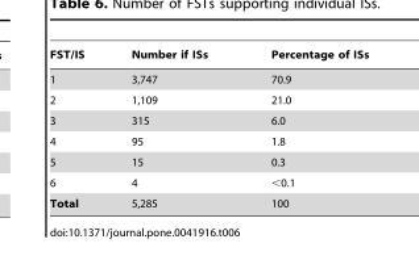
<table><thead><tr><td>FST/IS</td><td>Number if ISs</td><td>Percentage of ISs</td></tr></thead><tbody><tr><td>1</td><td>3,747</td><td>70.9</td></tr><tr><td>2</td><td>1,109</td><td>21.0</td></tr><tr><td>3</td><td>315</td><td>6.0</td></tr><tr><td>4</td><td>95</td><td>1.8</td></tr><tr><td>5</td><td>15</td><td>0.3</td></tr><tr><td>6</td><td>4</td><td>&lt;0.1</td></tr><tr><td>Total</td><td>5,285</td><td>100</td></tr></tbody></table>